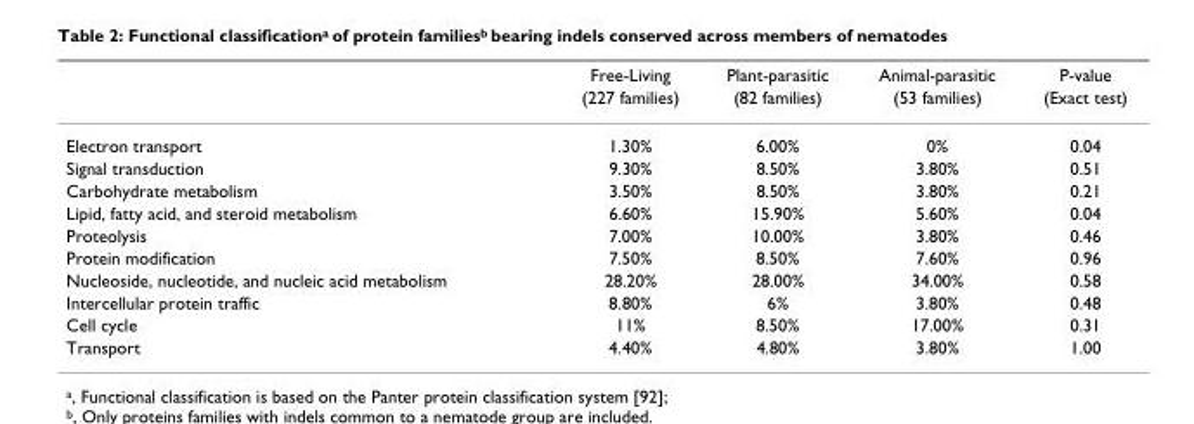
<table><thead><tr><td rowspan="2"></td><td rowspan="2">Free-Living (227 families)</td><td rowspan="2">Plant-parasitic (82 families)</td><td rowspan="2">Animal-parasitic (53 families)</td><td rowspan="2">P-value (Exact test)</td></tr><tr></tr></thead><tbody><tr><td>Electron transport</td><td>1.30%</td><td>6.00%</td><td>0%</td><td>0.04</td></tr><tr><td>Signal transduction</td><td>9.30%</td><td>8.50%</td><td>3.80%</td><td>0.51</td></tr><tr><td>Carbohydrate metabolism</td><td>3.50%</td><td>8.50%</td><td>3.80%</td><td>0.21</td></tr><tr><td>Lipid, fatty acid, and steroid metabolism</td><td>6.60%</td><td>15.90%</td><td>5.60%</td><td>0.04</td></tr><tr><td>Proteolysis</td><td>7.00%</td><td>10.00%</td><td>3.80%</td><td>0.46</td></tr><tr><td>Protein modification</td><td>7.50%</td><td>8.50%</td><td>7.60%</td><td>0.96</td></tr><tr><td>Nucleoside, nucleotide, and nucleic acid metabolism</td><td>28.20%</td><td>28.00%</td><td>34.00%</td><td>0.58</td></tr><tr><td>Intercellular protein traffic</td><td>8.80%</td><td>6%</td><td>3.80%</td><td>0.48</td></tr><tr><td>Cell cycle</td><td>11%</td><td>8.50%</td><td>17.00%</td><td>0.31</td></tr><tr><td>Transport</td><td>4.40%</td><td>4.80%</td><td>3.80%</td><td>1.00</td></tr></tbody></table>